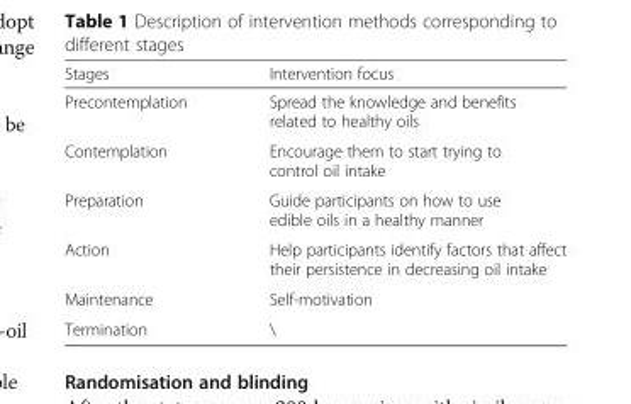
<table><thead><tr><td>Stages</td><td>Intervention focus</td></tr></thead><tbody><tr><td>Precontemplation</td><td>Spread the knowledge and benefits related to healthy oils</td></tr><tr><td>Contemplation</td><td>Encourage them to start trying to control oil intake</td></tr><tr><td>Preparation</td><td>Guide participants on how to use edible oils in a healthy manner</td></tr><tr><td>Action</td><td>Help participants identify factors that affect their persistence in decreasing oil intake</td></tr><tr><td>Maintenance</td><td>Self-motivation</td></tr><tr><td>Termination</td><td>\</td></tr></tbody></table>